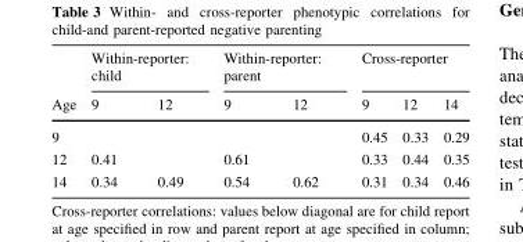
<table><thead><tr><td rowspan="2">Age</td><td colspan="2">Within-reporter: child</td><td colspan="2">Within-reporter: parent</td><td colspan="3">Cross-reporter</td></tr><tr><td>9</td><td>12</td><td>9</td><td>12</td><td>9</td><td>12</td><td>14</td></tr></thead><tbody><tr><td>9</td><td></td><td></td><td></td><td></td><td>0.45</td><td>0.33</td><td>0.29</td></tr><tr><td>12</td><td>0.41</td><td></td><td>0.61</td><td></td><td>0.33</td><td>0.44</td><td>0.35</td></tr><tr><td>14</td><td>0.34</td><td>0.49</td><td>0.54</td><td>0.62</td><td>0.31</td><td>0.34</td><td>0.46</td></tr></tbody></table>